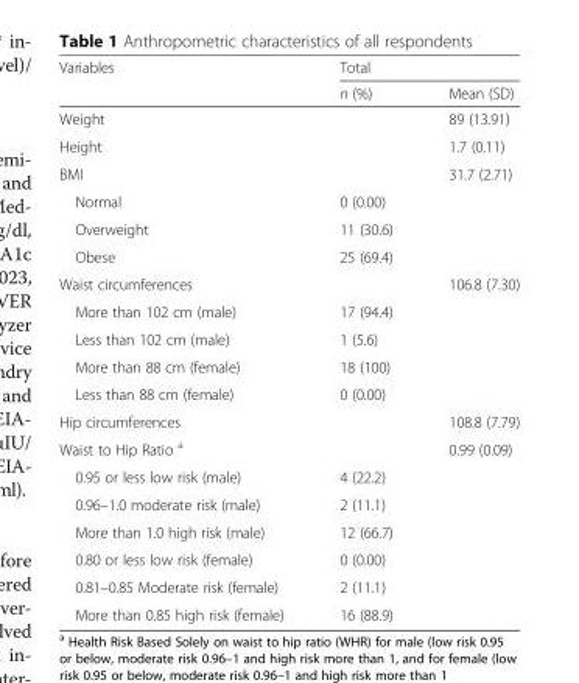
<table><thead><tr><td rowspan="2">Variables</td><td colspan="2">Total</td></tr><tr><td>n (%)</td><td>Mean (SD)</td></tr></thead><tbody><tr><td>Weight</td><td></td><td>89 (13.91)</td></tr><tr><td>Height</td><td></td><td>1.7 (0.11)</td></tr><tr><td>BMI</td><td></td><td>31.7 (2.71)</td></tr><tr><td>Normal</td><td>0 (0.00)</td><td></td></tr><tr><td>Overweight</td><td>11 (30.6)</td><td></td></tr><tr><td>Obese</td><td>25 (69.4)</td><td></td></tr><tr><td>Waist circumferences</td><td></td><td>106.8 (7.30)</td></tr><tr><td>More than 102 cm (male)</td><td>17 (94.4)</td><td></td></tr><tr><td>Less than 102 cm (male)</td><td>1 (5.6)</td><td></td></tr><tr><td>More than 88 cm (female)</td><td>18 (100)</td><td></td></tr><tr><td>Less than 88 cm (female)</td><td>0 (0.00)</td><td></td></tr><tr><td>Hip circumferences</td><td></td><td>108.8 (7.79)</td></tr><tr><td>Waist to Hip Ratio <sup>a</sup></td><td></td><td>0.99 (0.09)</td></tr><tr><td>0.95 or less low risk (male)</td><td>4 (22.2)</td><td></td></tr><tr><td>0.96–1.0 moderate risk (male)</td><td>2 (11.1)</td><td></td></tr><tr><td>More than 1.0 high risk (male)</td><td>12 (66.7)</td><td></td></tr><tr><td>0.80 or less low risk (female)</td><td>0 (0.00)</td><td></td></tr><tr><td>0.81–0.85 Moderate risk (female)</td><td>2 (11.1)</td><td></td></tr><tr><td>More than 0.85 high risk (female)</td><td>16 (88.9)</td><td></td></tr></tbody></table>